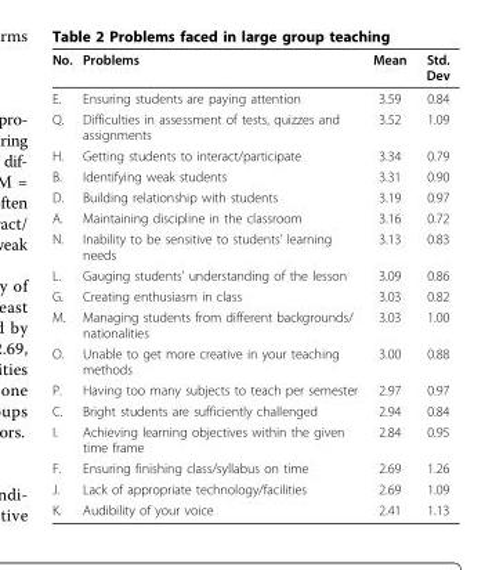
<table><thead><tr><td>No.</td><td>Problems</td><td>Mean</td><td>Std. Dev</td></tr></thead><tbody><tr><td>E.</td><td>Ensuring students are paying attention</td><td>3.59</td><td>0.84</td></tr><tr><td>Q.</td><td>Difficulties in assessment of tests, quizzes and assignments</td><td>3.52</td><td>1.09</td></tr><tr><td>H.</td><td>Getting students to interact/participate</td><td>3.34</td><td>0.79</td></tr><tr><td>B.</td><td>Identifying weak students</td><td>3.31</td><td>0.90</td></tr><tr><td>D.</td><td>Building relationship with students</td><td>3.19</td><td>0.97</td></tr><tr><td>A.</td><td>Maintaining discipline in the classroom</td><td>3.16</td><td>0.72</td></tr><tr><td>N.</td><td>Inability to be sensitive to students’ learning needs</td><td>3.13</td><td>0.83</td></tr><tr><td>L.</td><td>Gauging students’ understanding of the lesson</td><td>3.09</td><td>0.86</td></tr><tr><td>G.</td><td>Creating enthusiasm in class</td><td>3.03</td><td>0.82</td></tr><tr><td>M.</td><td>Managing students from different backgrounds/ nationalities</td><td>3.03</td><td>1.00</td></tr><tr><td>O.</td><td>Unable to get more creative in your teaching methods</td><td>3.00</td><td>0.88</td></tr><tr><td>P.</td><td>Having too many subjects to teach per semester</td><td>2.97</td><td>0.97</td></tr><tr><td>C.</td><td>Bright students are sufficiently challenged</td><td>2.94</td><td>0.84</td></tr><tr><td>I.</td><td>Achieving learning objectives within the given time frame</td><td>2.84</td><td>0.95</td></tr><tr><td>F.</td><td>Ensuring finishing class/syllabus on time</td><td>2.69</td><td>1.26</td></tr><tr><td>J.</td><td>Lack of appropriate technology/facilities</td><td>2.69</td><td>1.09</td></tr><tr><td>K.</td><td>Audibility of your voice</td><td>2.41</td><td>1.13</td></tr></tbody></table>